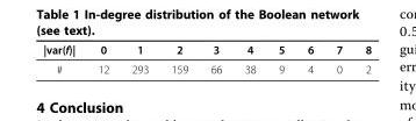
<table><thead><tr><td>|var(f)|</td><td>0</td><td>1</td><td>2</td><td>3</td><td>4</td><td>5</td><td>6</td><td>7</td><td>8</td></tr></thead><tbody><tr><td>#</td><td>12</td><td>293</td><td>159</td><td>66</td><td>38</td><td>9</td><td>4</td><td>0</td><td>2</td></tr></tbody></table>